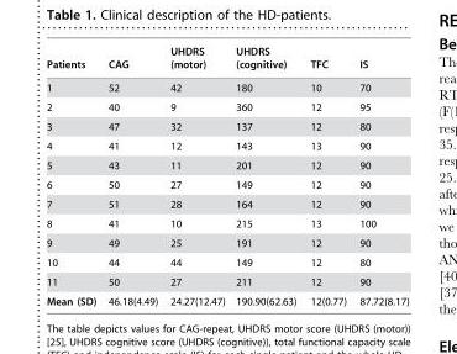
<table><thead><tr><td>Patients</td><td>CAG</td><td>UHDRS (motor)</td><td>UHDRS (cognitive)</td><td>TFC</td><td>IS</td></tr></thead><tbody><tr><td>1</td><td>52</td><td>42</td><td>180</td><td>10</td><td>70</td></tr><tr><td>2</td><td>40</td><td>9</td><td>360</td><td>12</td><td>95</td></tr><tr><td>3</td><td>47</td><td>32</td><td>137</td><td>12</td><td>80</td></tr><tr><td>4</td><td>41</td><td>12</td><td>143</td><td>13</td><td>90</td></tr><tr><td>5</td><td>43</td><td>11</td><td>201</td><td>12</td><td>90</td></tr><tr><td>6</td><td>50</td><td>27</td><td>149</td><td>12</td><td>90</td></tr><tr><td>7</td><td>51</td><td>28</td><td>164</td><td>12</td><td>90</td></tr><tr><td>8</td><td>41</td><td>10</td><td>215</td><td>13</td><td>100</td></tr><tr><td>9</td><td>49</td><td>25</td><td>191</td><td>12</td><td>90</td></tr><tr><td>10</td><td>44</td><td>44</td><td>149</td><td>12</td><td>80</td></tr><tr><td>11</td><td>50</td><td>27</td><td>211</td><td>12</td><td>90</td></tr><tr><td>Mean (SD)</td><td>46.18(4.49)</td><td>24.27(12.47)</td><td>190.90(62.63)</td><td>12(0.77)</td><td>87.72(8.17)</td></tr></tbody></table>